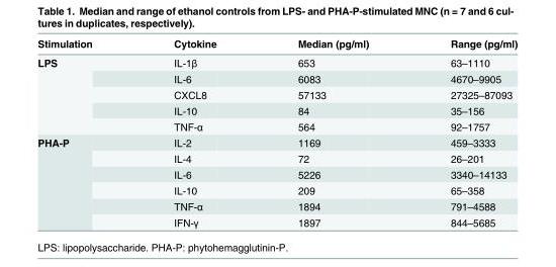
<table><thead><tr><td>Stimulation</td><td>Cytokine</td><td>Median (pg/ml)</td><td>Range (pg/ml)</td></tr></thead><tbody><tr><td rowspan="5">LPS</td><td>IL-1β</td><td>653</td><td>63–1110</td></tr><tr><td>IL-6</td><td>6083</td><td>4670–9905</td></tr><tr><td>CXCL8</td><td>57133</td><td>27325–87093</td></tr><tr><td>IL-10</td><td>84</td><td>35–156</td></tr><tr><td>TNF-α</td><td>564</td><td>92–1757</td></tr><tr><td rowspan="6">PHA-P</td><td>IL-2</td><td>1169</td><td>459–3333</td></tr><tr><td>IL-4</td><td>72</td><td>26–201</td></tr><tr><td>IL-6</td><td>5226</td><td>3340–14133</td></tr><tr><td>IL-10</td><td>209</td><td>65–358</td></tr><tr><td>TNF-α</td><td>1894</td><td>791–4588</td></tr><tr><td>IFN-γ</td><td>1897</td><td>844–5685</td></tr></tbody></table>